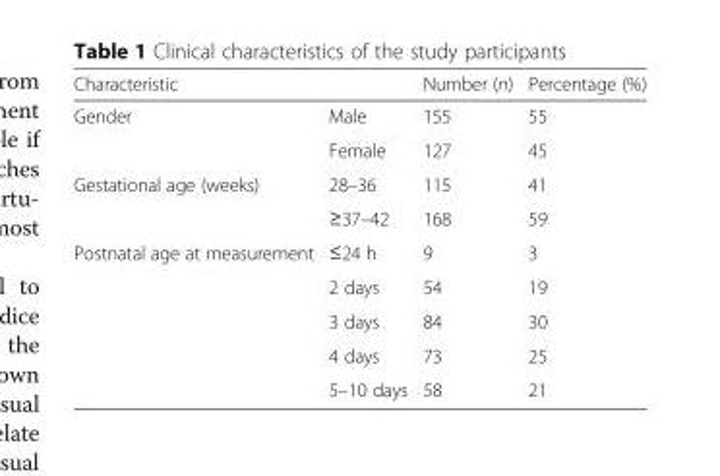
<table><thead><tr><td>Characteristic</td><td></td><td>Number (n)</td><td>Percentage (%)</td></tr></thead><tbody><tr><td rowspan="2">Gender</td><td>Male</td><td>155</td><td>55</td></tr><tr><td>Female</td><td>127</td><td>45</td></tr><tr><td rowspan="2">Gestational age (weeks)</td><td>28–36</td><td>115</td><td>41</td></tr><tr><td>≥37–42</td><td>168</td><td>59</td></tr><tr><td rowspan="5">Postnatal age at measurement</td><td>≤24 h</td><td>9</td><td>3</td></tr><tr><td>2 days</td><td>54</td><td>19</td></tr><tr><td>3 days</td><td>84</td><td>30</td></tr><tr><td>4 days</td><td>73</td><td>25</td></tr><tr><td>5–10 days</td><td>58</td><td>21</td></tr></tbody></table>